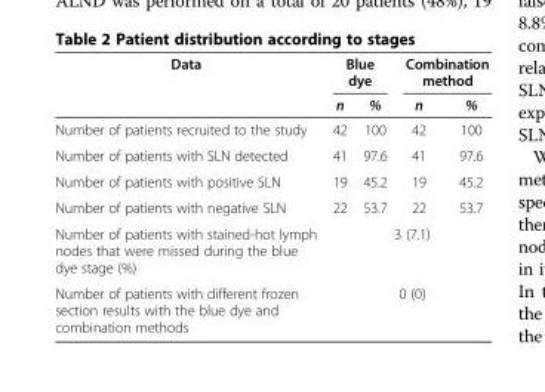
<table><thead><tr><td rowspan="2">Data</td><td colspan="2">Blue dye</td><td colspan="2">Combination method</td></tr><tr><td>n</td><td>%</td><td>n</td><td>%</td></tr></thead><tbody><tr><td>Number of patients recruited to the study</td><td>42</td><td>100</td><td>42</td><td>100</td></tr><tr><td>Number of patients with SLN detected</td><td>41</td><td>97.6</td><td>41</td><td>97.6</td></tr><tr><td>Number of patients with positive SLN</td><td>19</td><td>45.2</td><td>19</td><td>45.2</td></tr><tr><td>Number of patients with negative SLN</td><td>22</td><td>53.7</td><td>22</td><td>53.7</td></tr><tr><td>Number of patients with stained-hot lymph nodes that were missed during the blue dye stage (%)</td><td colspan="4">3 (7.1)</td></tr><tr><td>Number of patients with different frozen section results with the blue dye and combination methods</td><td colspan="4">0 (0)</td></tr></tbody></table>